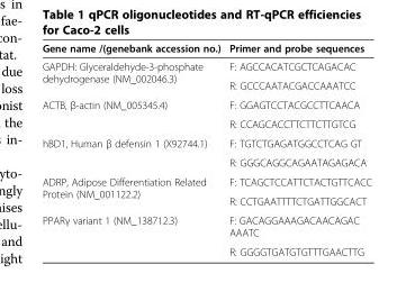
<table><thead><tr><td>Gene name /(genebank accession no.)</td><td>Primer and probe sequences</td></tr></thead><tbody><tr><td rowspan="2">GAPDH: Glyceraldehyde-3-phosphate dehydrogenase (NM_002046.3)</td><td>F: AGCCACATCGCTCAGACAC</td></tr><tr><td>R: GCCCAATACGACCAAATCC</td></tr><tr><td rowspan="2">ACTB, β-actin (NM_005345.4)</td><td>F: GGAGTCCTACGCCTTCAACA</td></tr><tr><td>R: CCAGCACCTTCTTCTTGTCG</td></tr><tr><td rowspan="2">hBD1, Human β defensin 1 (X92744.1)</td><td>F: TGTCTGAGATGGCCTCAG GT</td></tr><tr><td>R: GGGCAGGCAGAATAGAGACA</td></tr><tr><td rowspan="2">ADRP, Adipose Differentiation Related Protein (NM_001122.2)</td><td>F: TCAGCTCCATTCTACTGTTCACC</td></tr><tr><td>R: CCTGAATTTTCTGATTGGCACT</td></tr><tr><td rowspan="2">PPARγ variant 1 (NM_138712.3)</td><td>F: GACAGGAAAGACAACAGAC AAATC</td></tr><tr><td>R: GGGGTGATGTGTTTGAACTTG</td></tr></tbody></table>